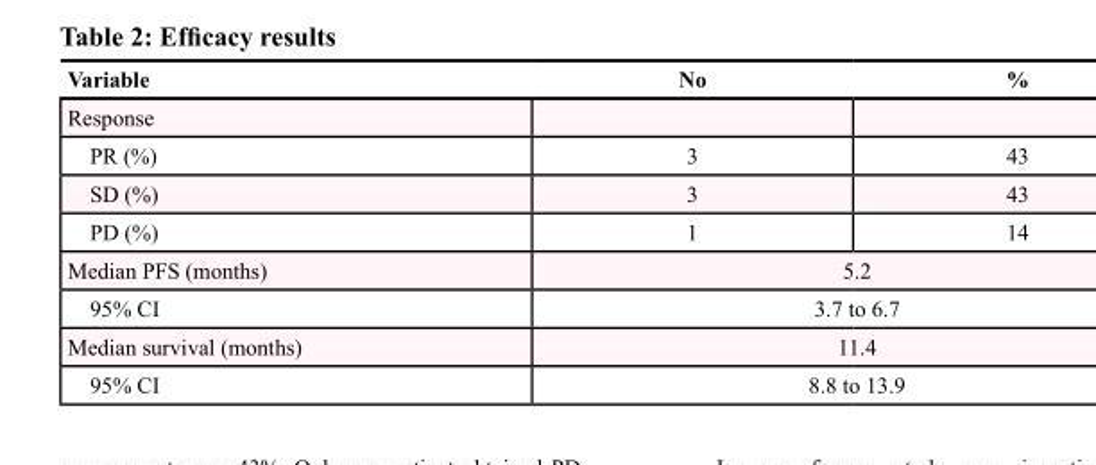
<table><thead><tr><td>Variable</td><td>No</td><td>%</td></tr></thead><tbody><tr><td colspan="3">Response</td></tr><tr><td>PR (%)</td><td>3</td><td>43</td></tr><tr><td>SD (%)</td><td>3</td><td>43</td></tr><tr><td>PD (%)</td><td>1</td><td>14</td></tr><tr><td>Median PFS (months)</td><td colspan="2">5.2</td></tr><tr><td>95% CI</td><td colspan="2">3.7 to 6.7</td></tr><tr><td>Median survival (months)</td><td colspan="2">11.4</td></tr><tr><td>95% CI</td><td colspan="2">8.8 to 13.9</td></tr></tbody></table>